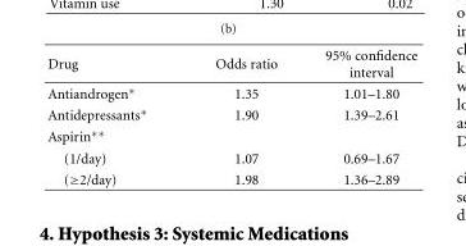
<table><thead><tr><td>Drug</td><td>Odds ratio</td><td>95% confidence interval</td></tr></thead><tbody><tr><td>Antiandrogen∗</td><td>1.35</td><td>1.01–1.80</td></tr><tr><td>Antidepressants∗</td><td>1.90</td><td>1.39–2.61</td></tr><tr><td colspan="3">Aspirin∗∗</td></tr><tr><td>(1/day)</td><td>1.07</td><td>0.69–1.67</td></tr><tr><td>(≥2/day)</td><td>1.98</td><td>1.36–2.89</td></tr></tbody></table>